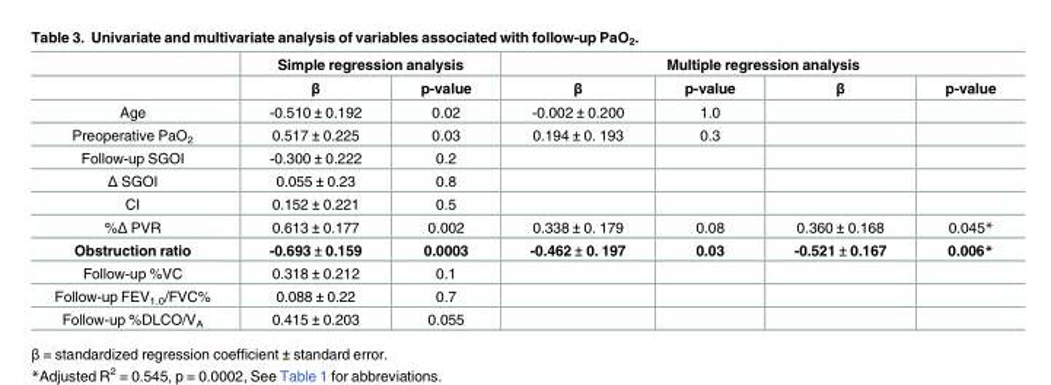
<table><thead><tr><td rowspan="2"></td><td colspan="2">Simple regression analysis</td><td colspan="4">Multiple regression analysis</td></tr><tr><td>β</td><td>p-value</td><td>β</td><td>p-value</td><td>β</td><td>p-value</td></tr></thead><tbody><tr><td>Age</td><td>-0.510 ± 0.192</td><td>0.02</td><td>-0.002 ± 0.200</td><td>1.0</td><td></td><td></td></tr><tr><td>Preoperative PaO<sub>2</sub></td><td>0.517 ± 0.225</td><td>0.03</td><td>0.194 ± 0. 193</td><td>0.3</td><td></td><td></td></tr><tr><td>Follow-up SGOI</td><td>-0.300 ± 0.222</td><td>0.2</td><td></td><td></td><td></td><td></td></tr><tr><td>Δ SGOI</td><td>0.055 ± 0.23</td><td>0.8</td><td></td><td></td><td></td><td></td></tr><tr><td>CI</td><td>0.152 ± 0.221</td><td>0.5</td><td></td><td></td><td></td><td></td></tr><tr><td>%Δ PVR</td><td>0.613 ± 0.177</td><td>0.002</td><td>0.338 ± 0. 179</td><td>0.08</td><td>0.360 ± 0.168</td><td>0.045*</td></tr><tr><td>Obstruction ratio</td><td>-0.693 ± 0.159</td><td>0.0003</td><td>-0.462 ± 0. 197</td><td>0.03</td><td>-0.521 ± 0.167</td><td>0.006*</td></tr><tr><td>Follow-up %VC</td><td>0.318 ± 0.212</td><td>0.1</td><td></td><td></td><td></td><td></td></tr><tr><td>Follow-up FEV<sub>1.0</sub>/FVC%</td><td>0.088 ± 0.22</td><td>0.7</td><td></td><td></td><td></td><td></td></tr><tr><td>Follow-up %DLCO/V<sub>A</sub></td><td>0.415 ± 0.203</td><td>0.055</td><td></td><td></td><td></td><td></td></tr></tbody></table>